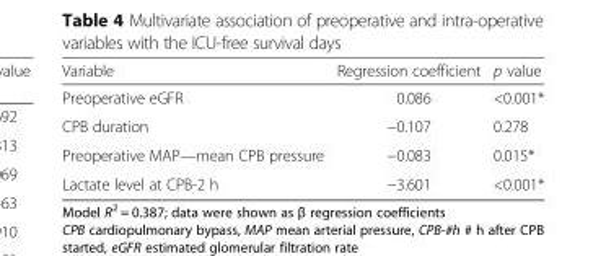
<table><thead><tr><td>Variable</td><td>Regression coefficient</td><td>p value</td></tr></thead><tbody><tr><td>Preoperative eGFR</td><td>0.086</td><td>&lt;0.001*</td></tr><tr><td>CPB duration</td><td>−0.107</td><td>0.278</td></tr><tr><td>Preoperative MAP—mean CPB pressure</td><td>−0.083</td><td>0.015*</td></tr><tr><td>Lactate level at CPB-2 h</td><td>−3.601</td><td>&lt;0.001*</td></tr></tbody></table>